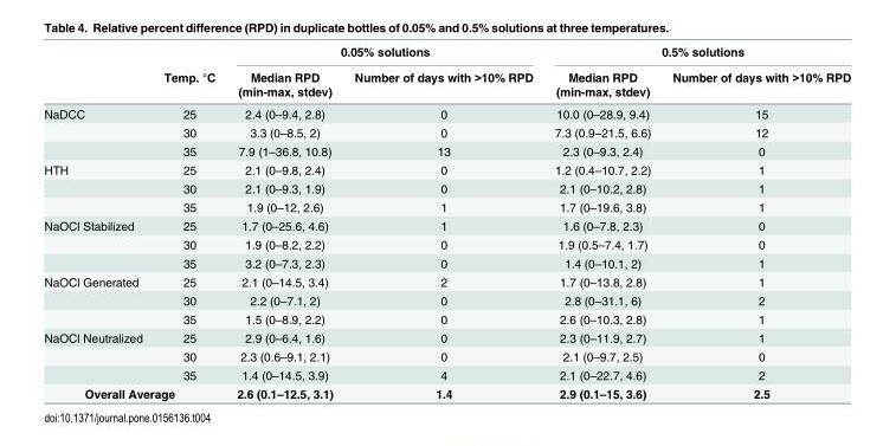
<table><thead><tr><td rowspan="2"></td><td rowspan="2">Temp. °C</td><td colspan="2">0.05% solutions</td><td colspan="2">0.5% solutions</td></tr><tr><td>Median RPD (min-max, stdev)</td><td>Number of days with &gt;10% RPD</td><td>Median RPD (min-max, stdev)</td><td>Number of days with &gt;10% RPD</td></tr></thead><tbody><tr><td rowspan="3">NaDCC</td><td>25</td><td>2.4 (0–9.4, 2.8)</td><td>0</td><td>10.0 (0–28.9, 9.4)</td><td>15</td></tr><tr><td>30</td><td>3.3 (0–8.5, 2)</td><td>0</td><td>7.3 (0.9–21.5, 6.6)</td><td>12</td></tr><tr><td>35</td><td>7.9 (1–36.8, 10.8)</td><td>13</td><td>2.3 (0–9.3, 2.4)</td><td>0</td></tr><tr><td rowspan="3">HTH</td><td>25</td><td>2.1 (0–9.8, 2.4)</td><td>0</td><td>1.2 (0.4–10.7, 2.2)</td><td>1</td></tr><tr><td>30</td><td>2.1 (0–9.3, 1.9)</td><td>0</td><td>2.1 (0–10.2, 2.8)</td><td>1</td></tr><tr><td>35</td><td>1.9 (0–12, 2.6)</td><td>1</td><td>1.7 (0–19.6, 3.8)</td><td>1</td></tr><tr><td rowspan="3">NaOCl Stabilized</td><td>25</td><td>1.7 (0–25.6, 4.6)</td><td>1</td><td>1.6 (0–7.8, 2.3)</td><td>0</td></tr><tr><td>30</td><td>1.9 (0–8.2, 2.2)</td><td>0</td><td>1.9 (0.5–7.4, 1.7)</td><td>0</td></tr><tr><td>35</td><td>3.2 (0–7.3, 2.3)</td><td>0</td><td>1.4 (0–10.1, 2)</td><td>1</td></tr><tr><td rowspan="3">NaOCl Generated</td><td>25</td><td>2.1 (0–14.5, 3.4)</td><td>2</td><td>1.7 (0–13.8, 2.8)</td><td>1</td></tr><tr><td>30</td><td>2.2 (0–7.1, 2)</td><td>0</td><td>2.8 (0–31.1, 6)</td><td>2</td></tr><tr><td>35</td><td>1.5 (0–8.9, 2.2)</td><td>0</td><td>2.6 (0–10.3, 2.8)</td><td>1</td></tr><tr><td rowspan="3">NaOCl Neutralized</td><td>25</td><td>2.9 (0–6.4, 1.6)</td><td>0</td><td>2.3 (0–11.9, 2.7)</td><td>1</td></tr><tr><td>30</td><td>2.3 (0.6–9.1, 2.1)</td><td>0</td><td>2.1 (0–9.7, 2.5)</td><td>0</td></tr><tr><td>35</td><td>1.4 (0–14.5, 3.9)</td><td>4</td><td>2.1 (0–22.7, 4.6)</td><td>2</td></tr><tr><td colspan="2">Overall Average</td><td>2.6 (0.1–12.5, 3.1)</td><td>1.4</td><td>2.9 (0.1–15, 3.6)</td><td>2.5</td></tr></tbody></table>